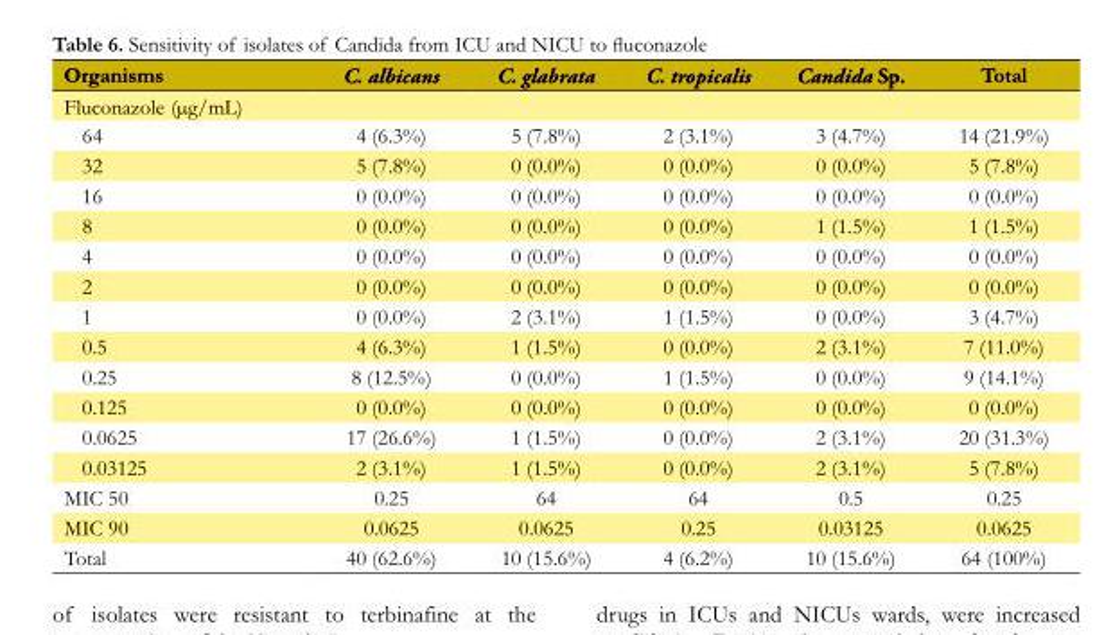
<table><tbody><tr><td>Organisms</td><td>C. albicans</td><td>C. glabrata</td><td>C. tropicalis</td><td>Candida Sp.</td><td>Total</td></tr><tr><td colspan="6">Fluconazole (µg/mL)</td></tr><tr><td>64</td><td>4 (6.3%)</td><td>5 (7.8%)</td><td>2 (3.1%)</td><td>3 (4.7%)</td><td>14 (21.9%)</td></tr><tr><td>32</td><td>5 (7.8%)</td><td>0 (0.0%)</td><td>0 (0.0%)</td><td>0 (0.0%)</td><td>5 (7.8%)</td></tr><tr><td>16</td><td>0 (0.0%)</td><td>0 (0.0%)</td><td>0 (0.0%)</td><td>0 (0.0%)</td><td>0 (0.0%)</td></tr><tr><td>8</td><td>0 (0.0%)</td><td>0 (0.0%)</td><td>0 (0.0%)</td><td>1 (1.5%)</td><td>1 (1.5%)</td></tr><tr><td>4</td><td>0 (0.0%)</td><td>0 (0.0%)</td><td>0 (0.0%)</td><td>0 (0.0%)</td><td>0 (0.0%)</td></tr><tr><td>2</td><td>0 (0.0%)</td><td>0 (0.0%)</td><td>0 (0.0%)</td><td>0 (0.0%)</td><td>0 (0.0%)</td></tr><tr><td>1</td><td>0 (0.0%)</td><td>2 (3.1%)</td><td>1 (1.5%)</td><td>0 (0.0%)</td><td>3 (4.7%)</td></tr><tr><td>0.5</td><td>4 (6.3%)</td><td>1 (1.5%)</td><td>0 (0.0%)</td><td>2 (3.1%)</td><td>7 (11.0%)</td></tr><tr><td>0.25</td><td>8 (12.5%)</td><td>0 (0.0%)</td><td>1 (1.5%)</td><td>0 (0.0%)</td><td>9 (14.1%)</td></tr><tr><td>0.125</td><td>0 (0.0%)</td><td>0 (0.0%)</td><td>0 (0.0%)</td><td>0 (0.0%)</td><td>0 (0.0%)</td></tr><tr><td>0.0625</td><td>17 (26.6%)</td><td>1 (1.5%)</td><td>0 (0.0%)</td><td>2 (3.1%)</td><td>20 (31.3%)</td></tr><tr><td>0.03125</td><td>2 (3.1%)</td><td>1 (1.5%)</td><td>0 (0.0%)</td><td>2 (3.1%)</td><td>5 (7.8%)</td></tr><tr><td>MIC 50</td><td>0.25</td><td>64</td><td>64</td><td>0.5</td><td>0.25</td></tr><tr><td>MIC 90</td><td>0.0625</td><td>0.0625</td><td>0.25</td><td>0.03125</td><td>0.0625</td></tr><tr><td>Total</td><td>40 (62.6%)</td><td>10 (15.6%)</td><td>4 (6.2%)</td><td>10 (15.6%)</td><td>64 (100%)</td></tr></tbody></table>